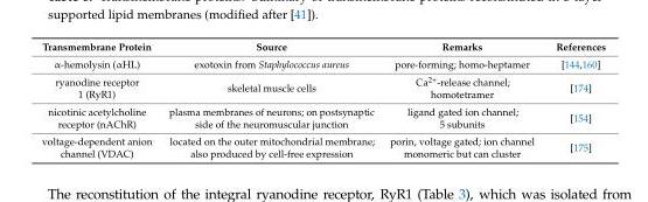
<table><thead><tr><td>Transmembrane Protein</td><td>Source</td><td>Remarks</td><td>References</td></tr></thead><tbody><tr><td>α-hemolysin (αHL)</td><td>exotoxin from Staphylococcus aureus</td><td>pore-forming; homo-heptamer</td><td>[144,160]</td></tr><tr><td>ryanodine receptor 1 (RyR1)</td><td>skeletal muscle cells</td><td>Ca<sup>2+</sup>-release channel; homotetramer</td><td>[174]</td></tr><tr><td>nicotinic acetylcholine receptor (nAChR)</td><td>plasma membranes of neurons; on postsynaptic side of the neuromuscular junction</td><td>ligand gated ion channel; 5 subunits</td><td>[154]</td></tr><tr><td>voltage-dependent anion channel (VDAC)</td><td>located on the outer mitochondrial membrane; also produced by cell-free expression</td><td>porin, voltage gated; ion channel monomeric but can cluster</td><td>[175]</td></tr></tbody></table>